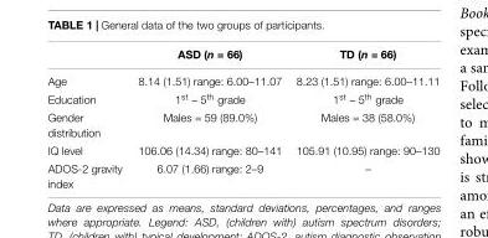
<table><thead><tr><td></td><td>ASD (n = 66)</td><td>TD (n = 66)</td></tr></thead><tbody><tr><td>Age</td><td>8.14 (1.51) range: 6.00–11.07</td><td>8.23 (1.51) range: 6.00–11.11</td></tr><tr><td>Education</td><td>1<sup>st</sup> – 5<sup>th</sup> grade</td><td>1<sup>st</sup> – 5<sup>th</sup> grade</td></tr><tr><td>Gender distribution</td><td>Males = 59 (89.0%)</td><td>Males = 38 (58.0%)</td></tr><tr><td>IQ level</td><td>106.06 (14.34) range: 80–141</td><td>105.91 (10.95) range: 90–130</td></tr><tr><td>ADOS-2 gravity index</td><td>6.07 (1.66) range: 2–9</td><td>–</td></tr></tbody></table>